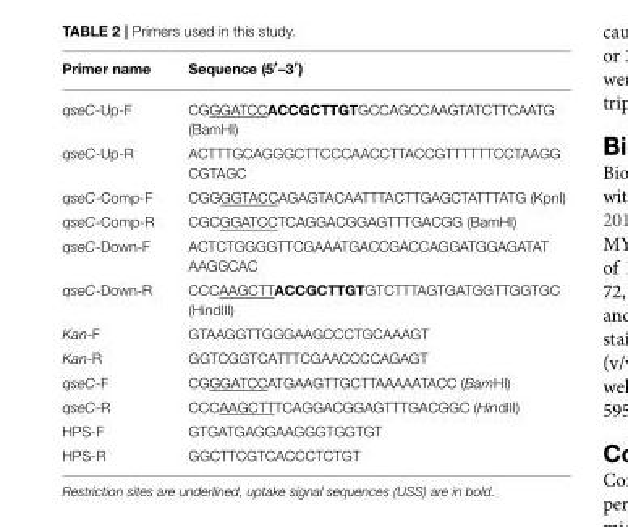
<table><thead><tr><td>Primer name</td><td>Sequence (5′–3′)</td></tr></thead><tbody><tr><td>qseC-Up-F</td><td>CGGGATCCACCGCTTGTGCCAGCCAAGTATCTTCAATG (BamHI)</td></tr><tr><td>qseC-Up-R</td><td>ACTTTGCAGGGCTTCCCAACCTTACCGTTTTTTCCTAAGG CGTAGC</td></tr><tr><td>qseC-Comp-F</td><td>CGGGGTACCAGAGTACAATTTACTTGAGCTATTTATG (KpnI)</td></tr><tr><td>qseC-Comp-R</td><td>CGCGGATCCTCAGGACGGAGTTTGACGG (BamHI)</td></tr><tr><td>qseC-Down-F</td><td>ACTCTGGGGTTCGAAATGACCGACCAGGATGGAGATAT AAGGCAC</td></tr><tr><td>qseC-Down-R</td><td>CCCAAGCTTACCGCTTGTGTCTTTAGTGATGGTTGGTGC (HindIII)</td></tr><tr><td>Kan-F</td><td>GTAAGGTTGGGAAGCCCTGCAAAGT</td></tr><tr><td>Kan-R</td><td>GGTCGGTCATTTCGAACCCCAGAGT</td></tr><tr><td>qseC-F</td><td>CGGGATCCATGAAGTTGCTTAAAAATACC (BamHI)</td></tr><tr><td>qseC-R</td><td>CCCAAGCTTTCAGGACGGAGTTTGACGGC (HindIII)</td></tr><tr><td>HPS-F</td><td>GTGATGAGGAAGGGTGGTGT</td></tr><tr><td>HPS-R</td><td>GGCTTCGTCACCCTCTGT</td></tr></tbody></table>